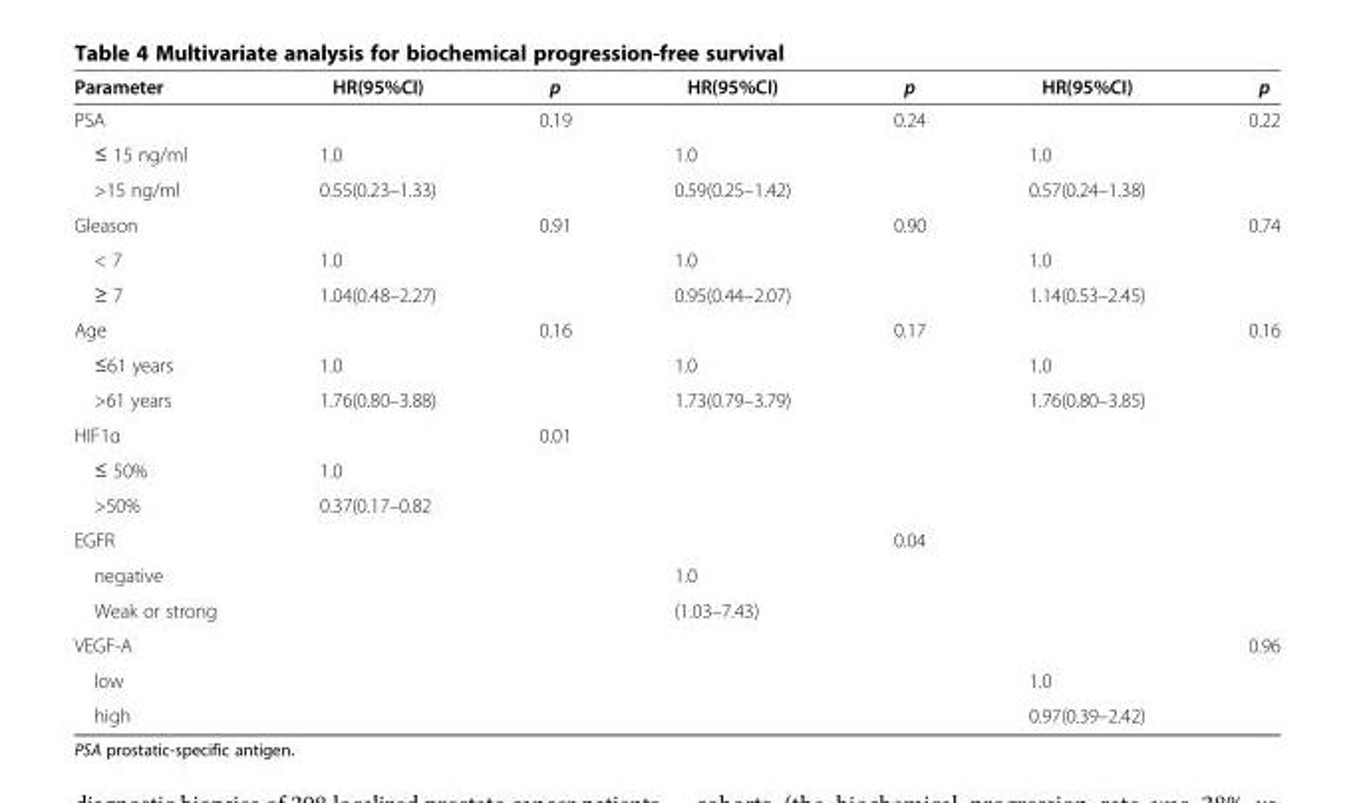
<table><thead><tr><td>Parameter</td><td>HR(95%CI)</td><td>p</td><td>HR(95%CI)</td><td>p</td><td>HR(95%CI)</td><td>p</td></tr></thead><tbody><tr><td>PSA</td><td></td><td>0.19</td><td></td><td>0.24</td><td></td><td>0.22</td></tr><tr><td>≤ 15 ng/ml</td><td>1.0</td><td></td><td>1.0</td><td></td><td>1.0</td><td></td></tr><tr><td>&gt;15 ng/ml</td><td>0.55(0.23–1.33)</td><td></td><td>0.59(0.25–1.42)</td><td></td><td>0.57(0.24–1.38)</td><td></td></tr><tr><td>Gleason</td><td></td><td>0.91</td><td></td><td>0.90</td><td></td><td>0.74</td></tr><tr><td>&lt; 7</td><td>1.0</td><td></td><td>1.0</td><td></td><td>1.0</td><td></td></tr><tr><td>≥ 7</td><td>1.04(0.48–2.27)</td><td></td><td>0.95(0.44–2.07)</td><td></td><td>1.14(0.53–2.45)</td><td></td></tr><tr><td>Age</td><td></td><td>0.16</td><td></td><td>0.17</td><td></td><td>0.16</td></tr><tr><td>≤61 years</td><td>1.0</td><td></td><td>1.0</td><td></td><td>1.0</td><td></td></tr><tr><td>&gt;61 years</td><td>1.76(0.80–3.88)</td><td></td><td>1.73(0.79–3.79)</td><td></td><td>1.76(0.80–3.85)</td><td></td></tr><tr><td>HIF1α</td><td></td><td>0.01</td><td></td><td></td><td></td><td></td></tr><tr><td>≤ 50%</td><td>1.0</td><td></td><td></td><td></td><td></td><td></td></tr><tr><td>&gt;50%</td><td>0.37(0.17–0.82</td><td></td><td></td><td></td><td></td><td></td></tr><tr><td>EGFR</td><td></td><td></td><td></td><td>0.04</td><td></td><td></td></tr><tr><td>negative</td><td></td><td></td><td>1.0</td><td></td><td></td><td></td></tr><tr><td>Weak or strong</td><td></td><td></td><td>(1.03–7.43)</td><td></td><td></td><td></td></tr><tr><td>VEGF-A</td><td></td><td></td><td></td><td></td><td></td><td>0.96</td></tr><tr><td>low</td><td></td><td></td><td></td><td></td><td>1.0</td><td></td></tr><tr><td>high</td><td></td><td></td><td></td><td></td><td>0.97(0.39–2.42)</td><td></td></tr></tbody></table>